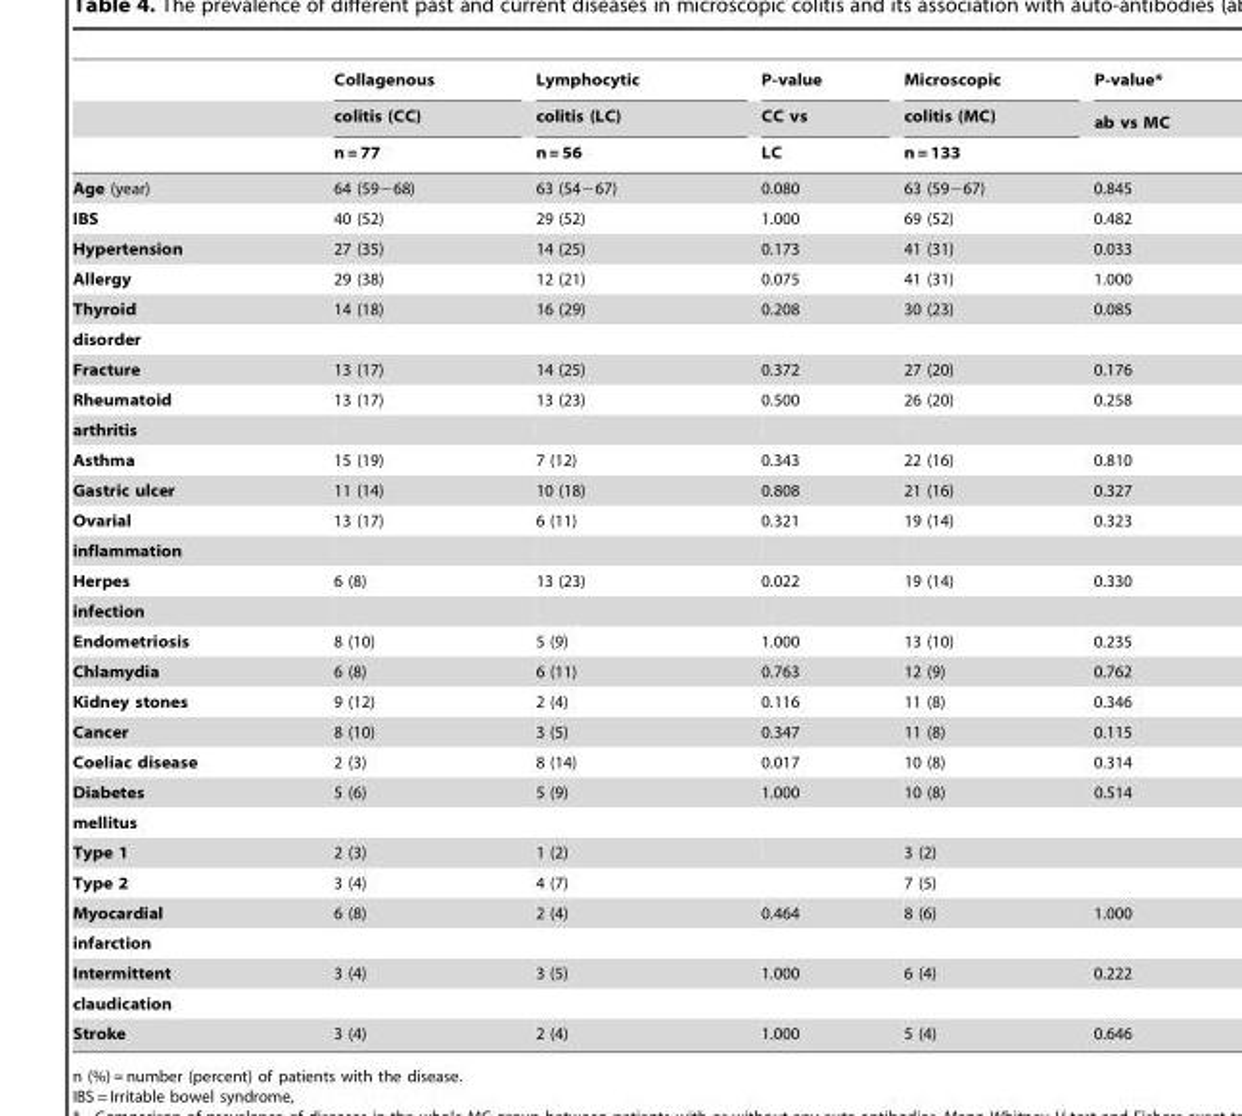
<table><thead><tr><td rowspan="3"></td><td rowspan="3">Collagenous colitis (CC) n = 77</td><td rowspan="3">Lymphocytic colitis (LC) n = 56</td><td rowspan="3">P-value CC vs LC</td><td rowspan="3">Microscopic colitis (MC) n = 133</td><td rowspan="3">P-value* ab vs MC</td></tr><tr></tr><tr></tr></thead><tbody><tr><td>Age (year)</td><td>64 (59−68)</td><td>63 (54−67)</td><td>0.080</td><td>63 (59−67)</td><td>0.845</td></tr><tr><td>IBS</td><td>40 (52)</td><td>29 (52)</td><td>1.000</td><td>69 (52)</td><td>0.482</td></tr><tr><td>Hypertension</td><td>27 (35)</td><td>14 (25)</td><td>0.173</td><td>41 (31)</td><td>0.033</td></tr><tr><td>Allergy</td><td>29 (38)</td><td>12 (21)</td><td>0.075</td><td>41 (31)</td><td>1.000</td></tr><tr><td>Thyroid</td><td>14 (18)</td><td>16 (29)</td><td>0.208</td><td>30 (23)</td><td>0.085</td></tr><tr><td colspan="6">disorder</td></tr><tr><td>Fracture</td><td>13 (17)</td><td>14 (25)</td><td>0.372</td><td>27 (20)</td><td>0.176</td></tr><tr><td>Rheumatoid</td><td>13 (17)</td><td>13 (23)</td><td>0.500</td><td>26 (20)</td><td>0.258</td></tr><tr><td colspan="6">arthritis</td></tr><tr><td>Asthma</td><td>15 (19)</td><td>7 (12)</td><td>0.343</td><td>22 (16)</td><td>0.810</td></tr><tr><td>Gastric ulcer</td><td>11 (14)</td><td>10 (18)</td><td>0.808</td><td>21 (16)</td><td>0.327</td></tr><tr><td>Ovarial</td><td>13 (17)</td><td>6 (11)</td><td>0.321</td><td>19 (14)</td><td>0.323</td></tr><tr><td colspan="6">inflammation</td></tr><tr><td>Herpes</td><td>6 (8)</td><td>13 (23)</td><td>0.022</td><td>19 (14)</td><td>0.330</td></tr><tr><td colspan="6">infection</td></tr><tr><td>Endometriosis</td><td>8 (10)</td><td>5 (9)</td><td>1.000</td><td>13 (10)</td><td>0.235</td></tr><tr><td>Chlamydia</td><td>6 (8)</td><td>6 (11)</td><td>0.763</td><td>12 (9)</td><td>0.762</td></tr><tr><td>Kidney stones</td><td>9 (12)</td><td>2 (4)</td><td>0.116</td><td>11 (8)</td><td>0.346</td></tr><tr><td>Cancer</td><td>8 (10)</td><td>3 (5)</td><td>0.347</td><td>11 (8)</td><td>0.115</td></tr><tr><td>Coeliac disease</td><td>2 (3)</td><td>8 (14)</td><td>0.017</td><td>10 (8)</td><td>0.314</td></tr><tr><td>Diabetes</td><td>5 (6)</td><td>5 (9)</td><td>1.000</td><td>10 (8)</td><td>0.514</td></tr><tr><td colspan="6">mellitus</td></tr><tr><td>Type 1</td><td>2 (3)</td><td>1 (2)</td><td></td><td>3 (2)</td><td></td></tr><tr><td>Type 2</td><td>3 (4)</td><td>4 (7)</td><td></td><td>7 (5)</td><td></td></tr><tr><td>Myocardial</td><td>6 (8)</td><td>2 (4)</td><td>0.464</td><td>8 (6)</td><td>1.000</td></tr><tr><td colspan="6">infarction</td></tr><tr><td>Intermittent</td><td>3 (4)</td><td>3 (5)</td><td>1.000</td><td>6 (4)</td><td>0.222</td></tr><tr><td colspan="6">claudication</td></tr><tr><td>Stroke</td><td>3 (4)</td><td>2 (4)</td><td>1.000</td><td>5 (4)</td><td>0.646</td></tr></tbody></table>